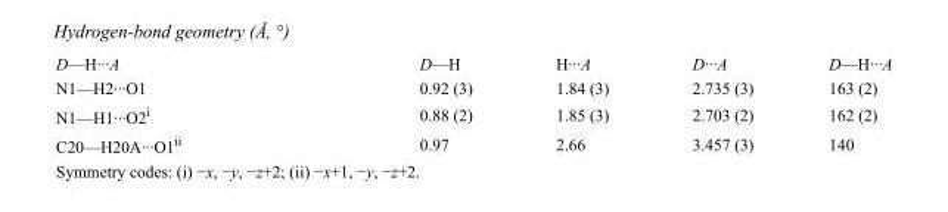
<table><tbody><tr><td>D—H···A</td><td>D—H</td><td>H···A</td><td>D···A</td><td>D—H···A</td></tr><tr><td>N1—H2···O1</td><td>0.92 (3)</td><td>1.84 (3)</td><td>2.735 (3)</td><td>163 (2)</td></tr><tr><td>N1—H1···O2<sup>i</sup></td><td>0.88 (2)</td><td>1.85 (3)</td><td>2.703 (2)</td><td>162 (2)</td></tr><tr><td>C20—H20A···O1<sup>ii</sup></td><td>0.97</td><td>2.66</td><td>3.457 (3)</td><td>140</td></tr></tbody></table>